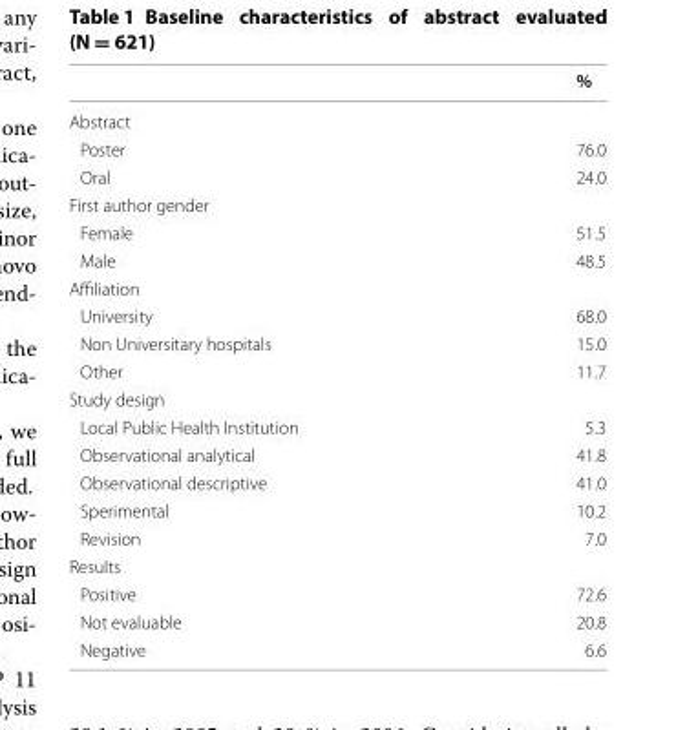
<table><thead><tr><td></td><td>%</td></tr></thead><tbody><tr><td colspan="2">Abstract</td></tr><tr><td>Poster</td><td>76.0</td></tr><tr><td>Oral</td><td>24.0</td></tr><tr><td colspan="2">First author gender</td></tr><tr><td>Female</td><td>51.5</td></tr><tr><td>Male</td><td>48.5</td></tr><tr><td colspan="2">Affiliation</td></tr><tr><td>University</td><td>68.0</td></tr><tr><td>Non Universitary hospitals</td><td>15.0</td></tr><tr><td>Other</td><td>11.7</td></tr><tr><td colspan="2">Study design</td></tr><tr><td>Local Public Health Institution</td><td>5.3</td></tr><tr><td>Observational analytical</td><td>41.8</td></tr><tr><td>Observational descriptive</td><td>41.0</td></tr><tr><td>Sperimental</td><td>10.2</td></tr><tr><td>Revision</td><td>7.0</td></tr><tr><td colspan="2">Results</td></tr><tr><td>Positive</td><td>72.6</td></tr><tr><td>Not evaluable</td><td>20.8</td></tr><tr><td>Negative</td><td>6.6</td></tr></tbody></table>